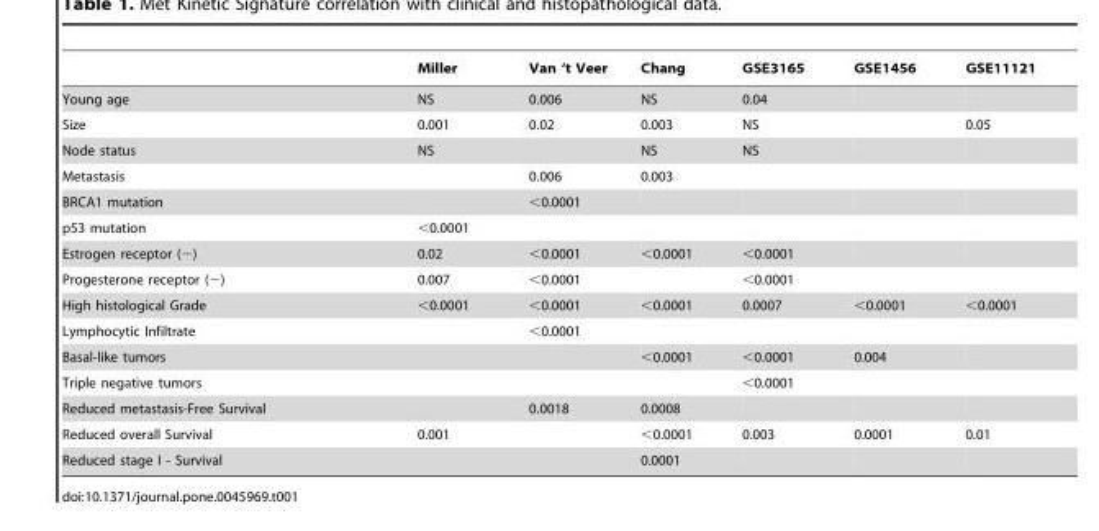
<table><thead><tr><td></td><td>Miller</td><td>Van ‘t Veer</td><td>Chang</td><td>GSE3165</td><td>GSE1456</td><td>GSE11121</td></tr></thead><tbody><tr><td>Young age</td><td>NS</td><td>0.006</td><td>NS</td><td>0.04</td><td></td><td></td></tr><tr><td>Size</td><td>0.001</td><td>0.02</td><td>0.003</td><td>NS</td><td></td><td>0.05</td></tr><tr><td>Node status</td><td>NS</td><td></td><td>NS</td><td>NS</td><td></td><td></td></tr><tr><td>Metastasis</td><td></td><td>0.006</td><td>0.003</td><td></td><td></td><td></td></tr><tr><td>BRCA1 mutation</td><td></td><td>&lt;0.0001</td><td></td><td></td><td></td><td></td></tr><tr><td>p53 mutation</td><td>&lt;0.0001</td><td></td><td></td><td></td><td></td><td></td></tr><tr><td>Estrogen receptor (−)</td><td>0.02</td><td>&lt;0.0001</td><td>&lt;0.0001</td><td>&lt;0.0001</td><td></td><td></td></tr><tr><td>Progesterone receptor (−)</td><td>0.007</td><td>&lt;0.0001</td><td></td><td>&lt;0.0001</td><td></td><td></td></tr><tr><td>High histological Grade</td><td>&lt;0.0001</td><td>&lt;0.0001</td><td>&lt;0.0001</td><td>0.0007</td><td>&lt;0.0001</td><td>&lt;0.0001</td></tr><tr><td>Lymphocytic Infiltrate</td><td></td><td>&lt;0.0001</td><td></td><td></td><td></td><td></td></tr><tr><td>Basal-like tumors</td><td></td><td></td><td>&lt;0.0001</td><td>&lt;0.0001</td><td>0.004</td><td></td></tr><tr><td>Triple negative tumors</td><td></td><td></td><td></td><td>&lt;0.0001</td><td></td><td></td></tr><tr><td>Reduced metastasis-Free Survival</td><td></td><td>0.0018</td><td>0.0008</td><td></td><td></td><td></td></tr><tr><td>Reduced overall Survival</td><td>0.001</td><td></td><td>&lt;0.0001</td><td>0.003</td><td>0.0001</td><td>0.01</td></tr><tr><td>Reduced stage I - Survival</td><td></td><td></td><td>0.0001</td><td></td><td></td><td></td></tr></tbody></table>